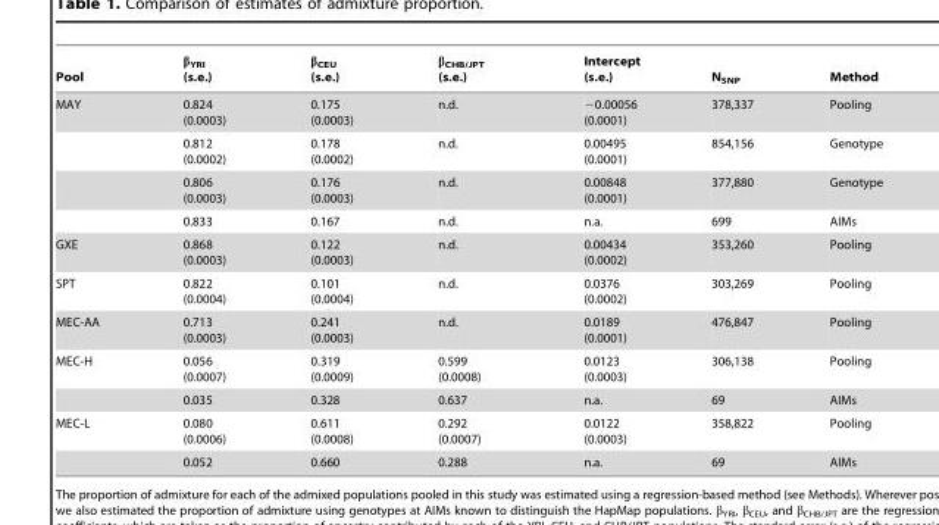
<table><thead><tr><td>Pool</td><td>β<sub>YRI</sub> (s.e.)</td><td>β<sub>CEU</sub> (s.e.)</td><td>β<sub>CHB/JPT</sub> (s.e.)</td><td>Intercept (s.e.)</td><td>N<sub>SNP</sub></td><td>Method</td></tr></thead><tbody><tr><td rowspan="4">MAY</td><td>0.824 (0.0003)</td><td>0.175 (0.0003)</td><td>n.d.</td><td>−0.00056 (0.0001)</td><td>378,337</td><td>Pooling</td></tr><tr><td>0.812 (0.0002)</td><td>0.178 (0.0002)</td><td>n.d.</td><td>0.00495 (0.0001)</td><td>854,156</td><td>Genotype</td></tr><tr><td>0.806 (0.0003)</td><td>0.176 (0.0003)</td><td>n.d.</td><td>0.00848 (0.0001)</td><td>377,880</td><td>Genotype</td></tr><tr><td>0.833</td><td>0.167</td><td>n.d.</td><td>n.a.</td><td>699</td><td>AIMs</td></tr><tr><td>GXE</td><td>0.868 (0.0003)</td><td>0.122 (0.0003)</td><td>n.d.</td><td>0.00434 (0.0002)</td><td>353,260</td><td>Pooling</td></tr><tr><td>SPT</td><td>0.822 (0.0004)</td><td>0.101 (0.0004)</td><td>n.d.</td><td>0.0376 (0.0002)</td><td>303,269</td><td>Pooling</td></tr><tr><td>MEC-AA</td><td>0.713 (0.0003)</td><td>0.241 (0.0003)</td><td>n.d.</td><td>0.0189 (0.0001)</td><td>476,847</td><td>Pooling</td></tr><tr><td rowspan="2">MEC-H</td><td>0.056 (0.0007)</td><td>0.319 (0.0009)</td><td>0.599 (0.0008)</td><td>0.0123 (0.0003)</td><td>306,138</td><td>Pooling</td></tr><tr><td>0.035</td><td>0.328</td><td>0.637</td><td>n.a.</td><td>69</td><td>AIMs</td></tr><tr><td rowspan="2">MEC-L</td><td>0.080 (0.0006)</td><td>0.611 (0.0008)</td><td>0.292 (0.0007)</td><td>0.0122 (0.0003)</td><td>358,822</td><td>Pooling</td></tr><tr><td>0.052</td><td>0.660</td><td>0.288</td><td>n.a.</td><td>69</td><td>AIMs</td></tr></tbody></table>